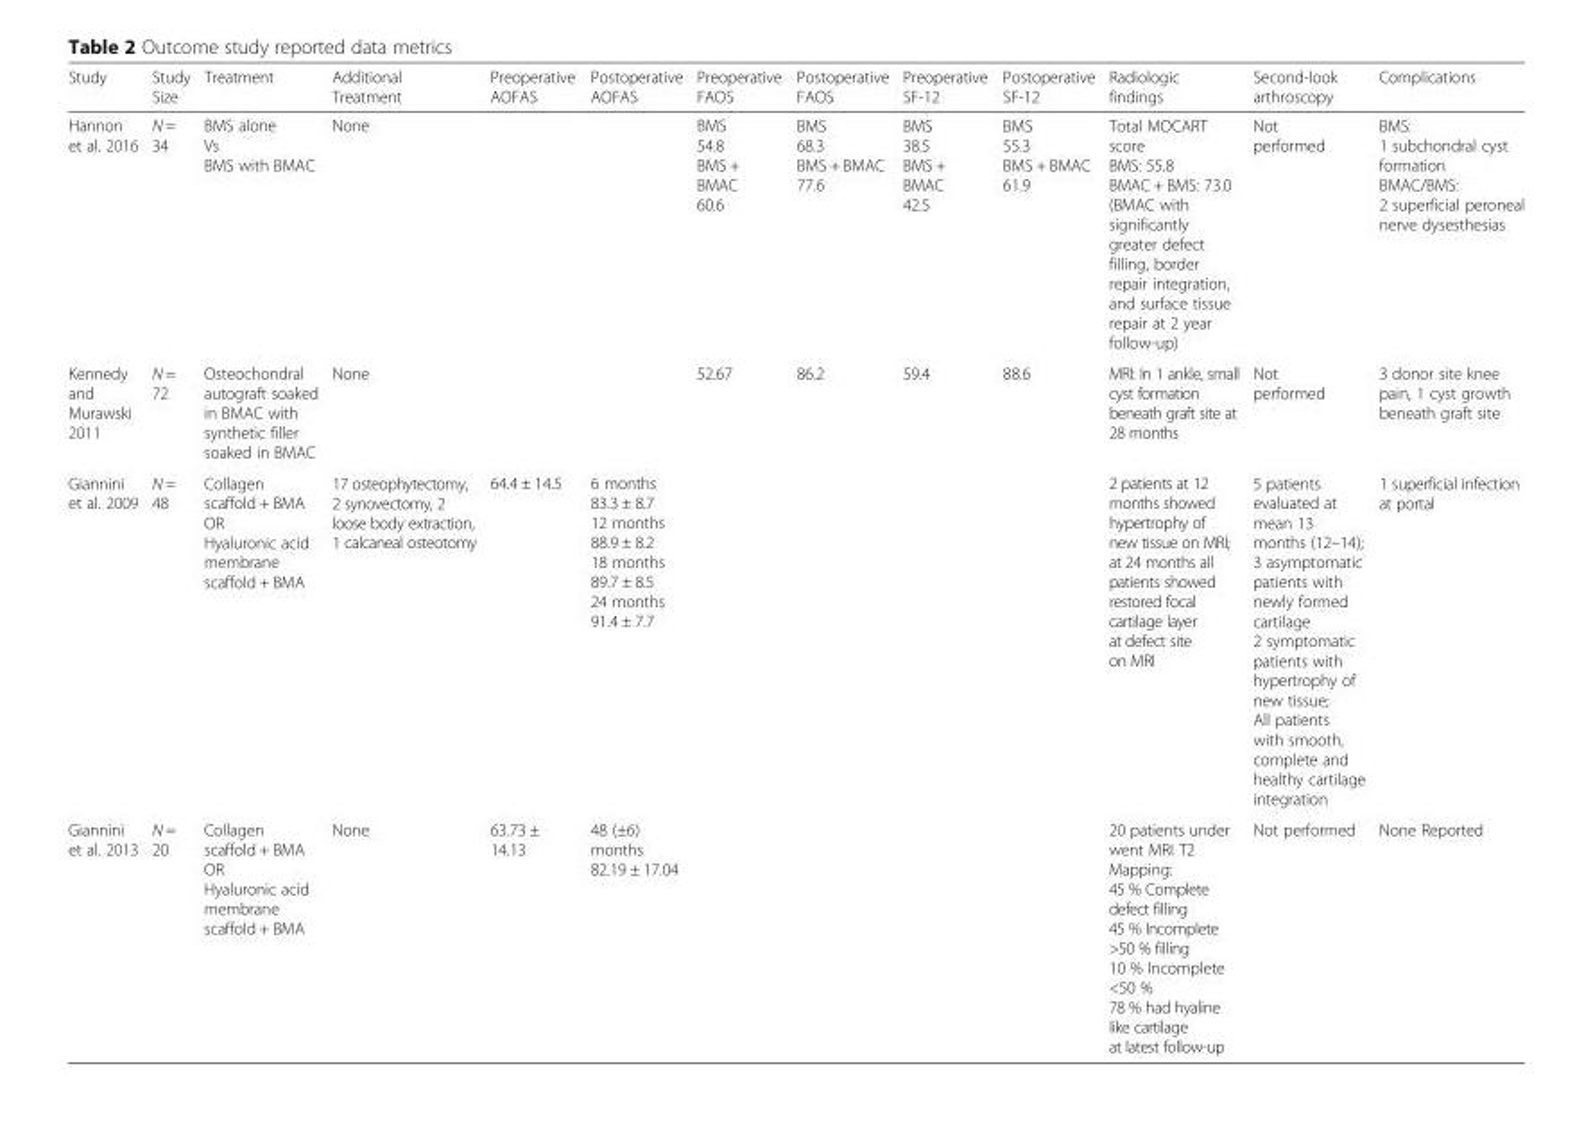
<table><thead><tr><td>Study</td><td>Study Size</td><td>Treatment</td><td>Additional Treatment</td><td>Preoperative AOFAS</td><td>Postoperative AOFAS</td><td>Preoperative FAOS</td><td>Postoperative FAOS</td><td>Preoperative SF-12</td><td>Postoperative SF-12</td><td>Radiologic findings</td><td>Second-look arthroscopy</td><td>Complications</td></tr></thead><tbody><tr><td>Hannon et al. 2016</td><td>N = 34</td><td>BMS alone Vs BMS with BMAC</td><td>None</td><td></td><td></td><td>BMS 54.8 BMS + BMAC 60.6</td><td>BMS 68.3 BMS + BMAC 77.6</td><td>BMS 38.5 BMS + BMAC 42.5</td><td>BMS 55.3 BMS + BMAC 61.9</td><td>Total MOCART score BMS: 55.8 BMAC + BMS: 73.0 (BMAC with significantly greater defect filling, border repair integration, and surface tissue repair at 2 year follow-up)</td><td>Not performed</td><td>BMS: 1 subchondral cyst formation BMAC/BMS: 2 superficial peroneal nerve dysesthesias</td></tr><tr><td>Kennedy and Murawski 2011</td><td>N = 72</td><td>Osteochondral autograft soaked in BMAC with synthetic filler soaked in BMAC</td><td>None</td><td></td><td></td><td>52.67</td><td>86.2</td><td>59.4</td><td>88.6</td><td>MRI: In 1 ankle, small cyst formation beneath graft site at 28 months</td><td>Not performed</td><td>3 donor site knee pain, 1 cyst growth beneath graft site</td></tr><tr><td>Giannini et al. 2009</td><td>N = 48</td><td>Collagen scaffold + BMA OR Hyaluronic acid membrane scaffold + BMA</td><td>17 osteophytectomy, 2 synovectomy, 2 loose body extraction, 1 calcaneal osteotomy</td><td>64.4 ± 14.5</td><td>6 months 83.3 ± 8.7 12 months 88.9 ± 8.2 18 months 89.7 ± 8.5 24 months 91.4 ± 7.7</td><td></td><td></td><td></td><td></td><td>2 patients at 12 months showed hypertrophy of new tissue on MRI; at 24 months all patients showed restored focal cartilage layer at defect site on MRI</td><td>5 patients evaluated at mean 13 months (12–14); 3 asymptomatic patients with newly formed cartilage 2 symptomatic patients with hypertrophy of new tissue; All patients with smooth, complete and healthy cartilage integration</td><td>1 superficial infection at portal</td></tr><tr><td>Giannini et al. 2013</td><td>N = 20</td><td>Collagen scaffold + BMA OR Hyaluronic acid membrane scaffold + BMA</td><td>None</td><td>63.73 ± 14.13</td><td>48 (±6) months 82.19 ± 17.04</td><td></td><td></td><td></td><td></td><td>20 patients under went MRI T2 Mapping: 45 % Complete defect filling 45 % Incomplete &gt;50 % filling 10 % Incomplete &lt;50 % 78 % had hyaline like cartilage at latest follow-up</td><td>Not performed</td><td>None Reported</td></tr></tbody></table>